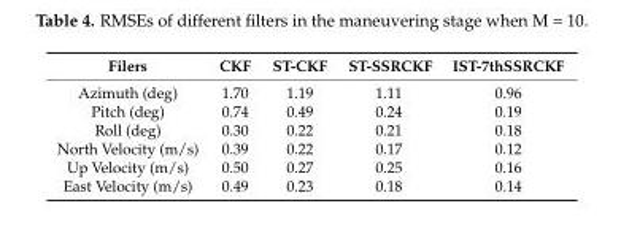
<table><thead><tr><td>Filers</td><td>CKF</td><td>ST-CKF</td><td>ST-SSRCKF</td><td>IST-7thSSRCKF</td></tr></thead><tbody><tr><td>Azimuth (deg)</td><td>1.70</td><td>1.19</td><td>1.11</td><td>0.96</td></tr><tr><td>Pitch (deg)</td><td>0.74</td><td>0.49</td><td>0.24</td><td>0.19</td></tr><tr><td>Roll (deg)</td><td>0.30</td><td>0.22</td><td>0.21</td><td>0.18</td></tr><tr><td>North Velocity (m/s)</td><td>0.39</td><td>0.22</td><td>0.17</td><td>0.12</td></tr><tr><td>Up Velocity (m/s)</td><td>0.50</td><td>0.27</td><td>0.25</td><td>0.16</td></tr><tr><td>East Velocity (m/s)</td><td>0.49</td><td>0.23</td><td>0.18</td><td>0.14</td></tr></tbody></table>